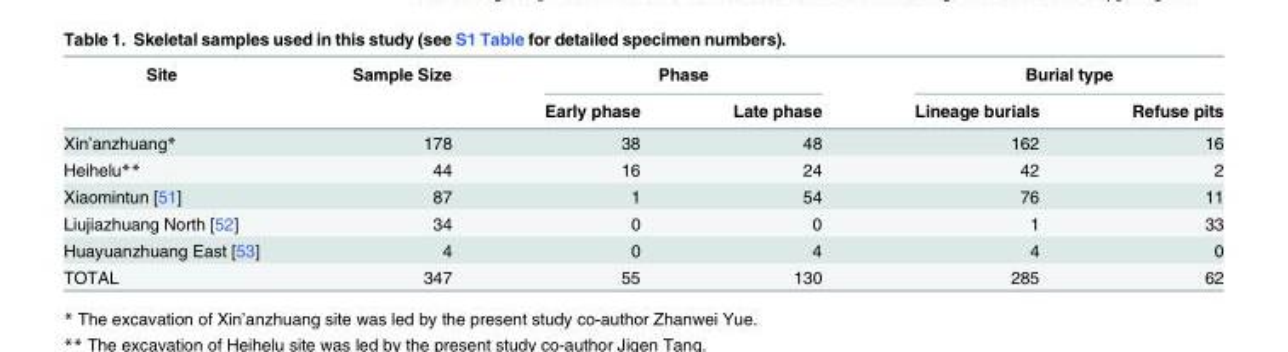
<table><thead><tr><td rowspan="2">Site</td><td rowspan="2">Sample Size</td><td colspan="2">Phase</td><td colspan="2">Burial type</td></tr><tr><td>Early phase</td><td>Late phase</td><td>Lineage burials</td><td>Refuse pits</td></tr></thead><tbody><tr><td>Xin’anzhuang*</td><td>178</td><td>38</td><td>48</td><td>162</td><td>16</td></tr><tr><td>Heihelu**</td><td>44</td><td>16</td><td>24</td><td>42</td><td>2</td></tr><tr><td>Xiaomintun [51]</td><td>87</td><td>1</td><td>54</td><td>76</td><td>11</td></tr><tr><td>Liujiazhuang North [52]</td><td>34</td><td>0</td><td>0</td><td>1</td><td>33</td></tr><tr><td>Huayuanzhuang East [53]</td><td>4</td><td>0</td><td>4</td><td>4</td><td>0</td></tr><tr><td>TOTAL</td><td>347</td><td>55</td><td>130</td><td>285</td><td>62</td></tr></tbody></table>